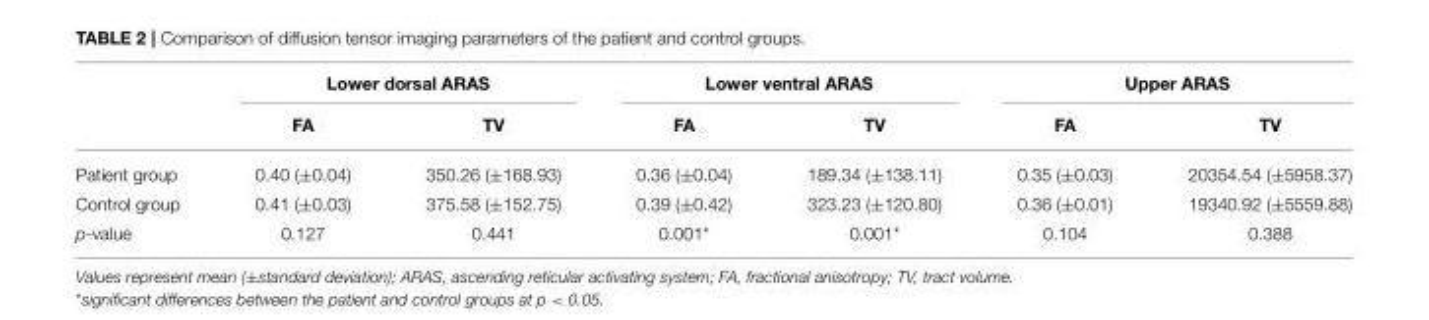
<table><thead><tr><td rowspan="2"></td><td colspan="2">Lower dorsal ARAS</td><td colspan="2">Lower ventral ARAS</td><td colspan="2">Upper ARAS</td></tr><tr><td>FA</td><td>TV</td><td>FA</td><td>TV</td><td>FA</td><td>TV</td></tr></thead><tbody><tr><td>Patient group</td><td>0.40 (±0.04)</td><td>350.26 (±168.93)</td><td>0.36 (±0.04)</td><td>189.34 (±138.11)</td><td>0.35 (±0.03)</td><td>20354.54 (±5958.37)</td></tr><tr><td>Control group</td><td>0.41 (±0.03)</td><td>375.58 (±152.75)</td><td>0.39 (±0.42)</td><td>323.23 (±120.80)</td><td>0.36 (±0.01)</td><td>19340.92 (±5559.88)</td></tr><tr><td>p-value</td><td>0.127</td><td>0.441</td><td>0.001*</td><td>0.001*</td><td>0.104</td><td>0.388</td></tr></tbody></table>